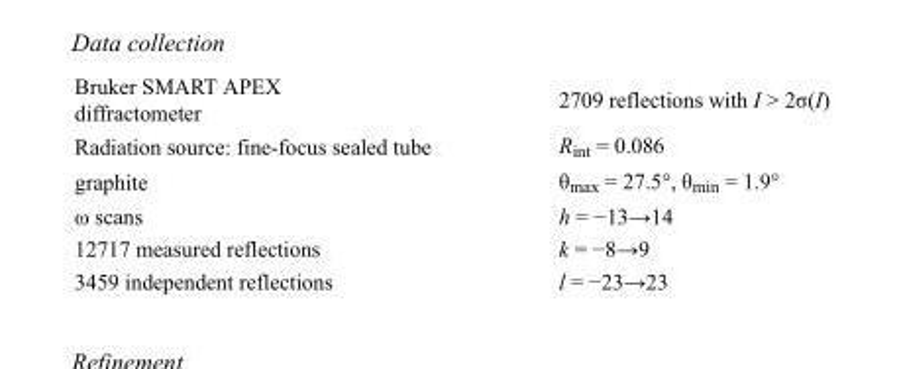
<table><tbody><tr><td>Bruker SMART APEX diffractometer</td><td>2709 reflections with I &gt; 2σ(I)</td></tr><tr><td>Radiation source: fine-focus sealed tube</td><td>R<sub>int</sub> = 0.086</td></tr><tr><td>graphite</td><td>θ<sub>max</sub> = 27.5°, θ<sub>min</sub> = 1.9°</td></tr><tr><td>ω scans</td><td>h = −13→14</td></tr><tr><td>12717 measured reflections</td><td>k = −8→9</td></tr><tr><td>3459 independent reflections</td><td>l = −23→23</td></tr></tbody></table>